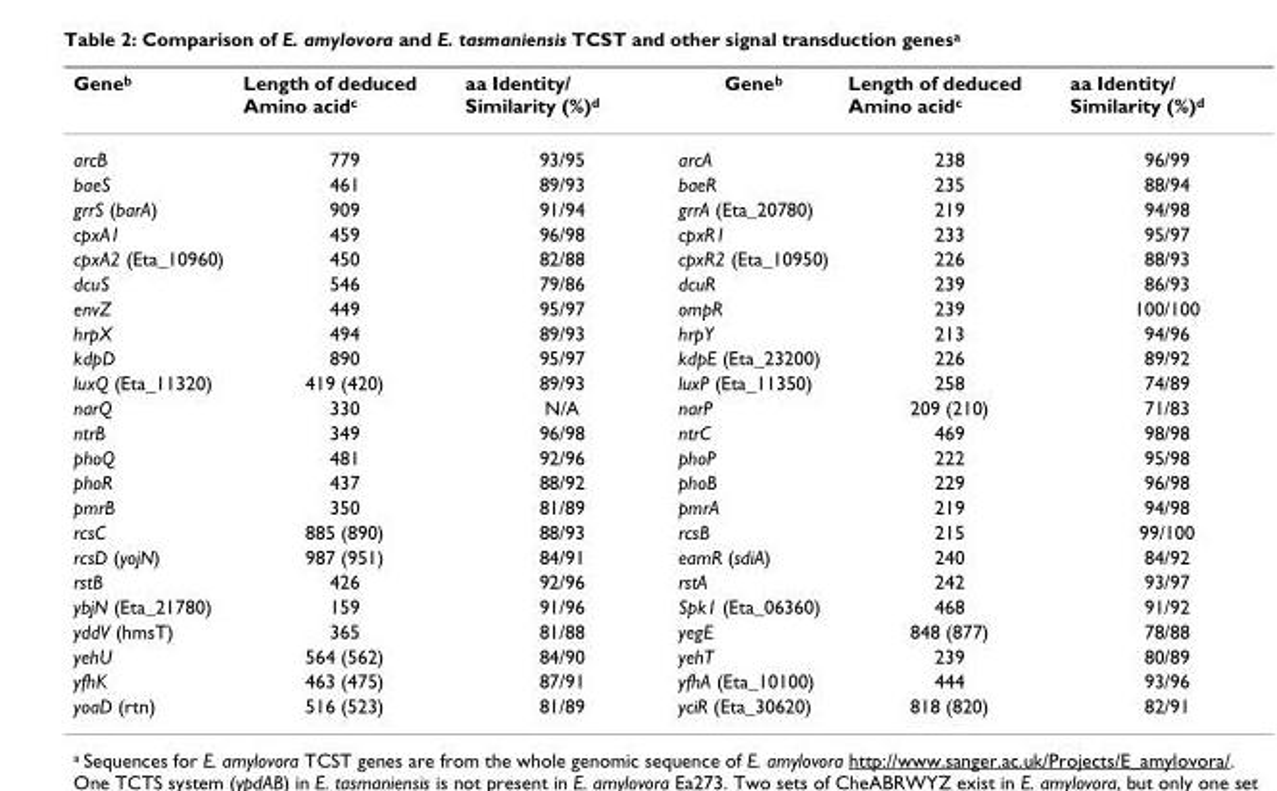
<table><thead><tr><td>Gene<sup>b</sup></td><td>Length of deduced Amino acid<sup>c</sup></td><td>aa Identity/ Similarity (%)<sup>d</sup></td><td>Gene<sup>b</sup></td><td>Length of deduced Amino acid<sup>c</sup></td><td>aa Identity/ Similarity (%)<sup>d</sup></td></tr></thead><tbody><tr><td>arcB</td><td>779</td><td>93/95</td><td>arcA</td><td>238</td><td>96/99</td></tr><tr><td>baeS</td><td>461</td><td>89/93</td><td>baeR</td><td>235</td><td>88/94</td></tr><tr><td>grrS (barA)</td><td>909</td><td>91/94</td><td>grrA (Eta_20780)</td><td>219</td><td>94/98</td></tr><tr><td>cpxA1</td><td>459</td><td>96/98</td><td>cpxR1</td><td>233</td><td>95/97</td></tr><tr><td>cpxA2 (Eta_10960)</td><td>450</td><td>82/88</td><td>cpxR2 (Eta_10950)</td><td>226</td><td>88/93</td></tr><tr><td>dcuS</td><td>546</td><td>79/86</td><td>dcuR</td><td>239</td><td>86/93</td></tr><tr><td>envZ</td><td>449</td><td>95/97</td><td>ompR</td><td>239</td><td>100/100</td></tr><tr><td>hrpX</td><td>494</td><td>89/93</td><td>hrpY</td><td>213</td><td>94/96</td></tr><tr><td>kdpD</td><td>890</td><td>95/97</td><td>kdpE (Eta_23200)</td><td>226</td><td>89/92</td></tr><tr><td>luxQ (Eta_11320)</td><td>419 (420)</td><td>89/93</td><td>luxP (Eta_11350)</td><td>258</td><td>74/89</td></tr><tr><td>narQ</td><td>330</td><td>N/A</td><td>narP</td><td>209 (210)</td><td>71/83</td></tr><tr><td>ntrB</td><td>349</td><td>96/98</td><td>ntrC</td><td>469</td><td>98/98</td></tr><tr><td>phoQ</td><td>481</td><td>92/96</td><td>phoP</td><td>222</td><td>95/98</td></tr><tr><td>phoR</td><td>437</td><td>88/92</td><td>phoB</td><td>229</td><td>96/98</td></tr><tr><td>pmrB</td><td>350</td><td>81/89</td><td>pmrA</td><td>219</td><td>94/98</td></tr><tr><td>rcsC</td><td>885 (890)</td><td>88/93</td><td>rcsB</td><td>215</td><td>99/100</td></tr><tr><td>rcsD (yojN)</td><td>987 (951)</td><td>84/91</td><td>eamR (sdiA)</td><td>240</td><td>84/92</td></tr><tr><td>rstB</td><td>426</td><td>92/96</td><td>rstA</td><td>242</td><td>93/97</td></tr><tr><td>ybjN (Eta_21780)</td><td>159</td><td>91/96</td><td>Spk1 (Eta_06360)</td><td>468</td><td>91/92</td></tr><tr><td>yddV (hmsT)</td><td>365</td><td>81/88</td><td>yegE</td><td>848 (877)</td><td>78/88</td></tr><tr><td>yehU</td><td>564 (562)</td><td>84/90</td><td>yehT</td><td>239</td><td>80/89</td></tr><tr><td>yfhK</td><td>463 (475)</td><td>87/91</td><td>yfhA (Eta_10100)</td><td>444</td><td>93/96</td></tr><tr><td>yoaD (rtn)</td><td>516 (523)</td><td>81/89</td><td>yciR (Eta_30620)</td><td>818 (820)</td><td>82/91</td></tr></tbody></table>